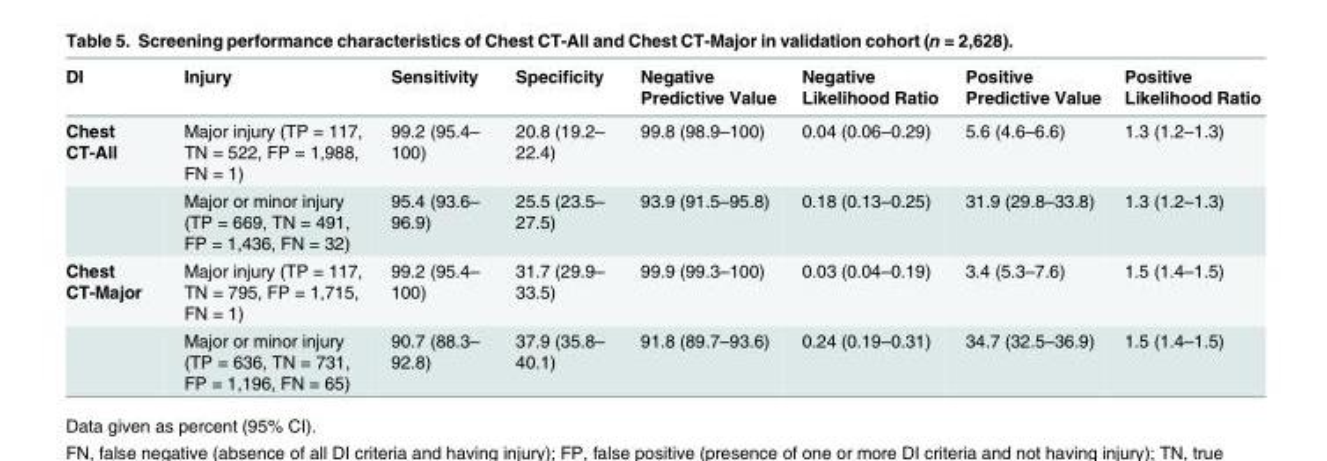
<table><thead><tr><td>DI</td><td>Injury</td><td>Sensitivity</td><td>Specificity</td><td>Negative Predictive Value</td><td>Negative Likelihood Ratio</td><td>Positive Predictive Value</td><td>Positive Likelihood Ratio</td></tr></thead><tbody><tr><td rowspan="2">Chest CT-All</td><td>Major injury (TP = 117, TN = 522, FP = 1,988, FN = 1)</td><td>99.2 (95.4– 100)</td><td>20.8 (19.2– 22.4)</td><td>99.8 (98.9–100)</td><td>0.04 (0.06–0.29)</td><td>5.6 (4.6–6.6)</td><td>1.3 (1.2–1.3)</td></tr><tr><td>Major or minor injury (TP = 669, TN = 491, FP = 1,436, FN = 32)</td><td>95.4 (93.6– 96.9)</td><td>25.5 (23.5– 27.5)</td><td>93.9 (91.5–95.8)</td><td>0.18 (0.13–0.25)</td><td>31.9 (29.8–33.8)</td><td>1.3 (1.2–1.3)</td></tr><tr><td rowspan="2">Chest CT-Major</td><td>Major injury (TP = 117, TN = 795, FP = 1,715, FN = 1)</td><td>99.2 (95.4– 100)</td><td>31.7 (29.9– 33.5)</td><td>99.9 (99.3–100)</td><td>0.03 (0.04–0.19)</td><td>3.4 (5.3–7.6)</td><td>1.5 (1.4–1.5)</td></tr><tr><td>Major or minor injury (TP = 636, TN = 731, FP = 1,196, FN = 65)</td><td>90.7 (88.3– 92.8)</td><td>37.9 (35.8– 40.1)</td><td>91.8 (89.7–93.6)</td><td>0.24 (0.19–0.31)</td><td>34.7 (32.5–36.9)</td><td>1.5 (1.4–1.5)</td></tr></tbody></table>